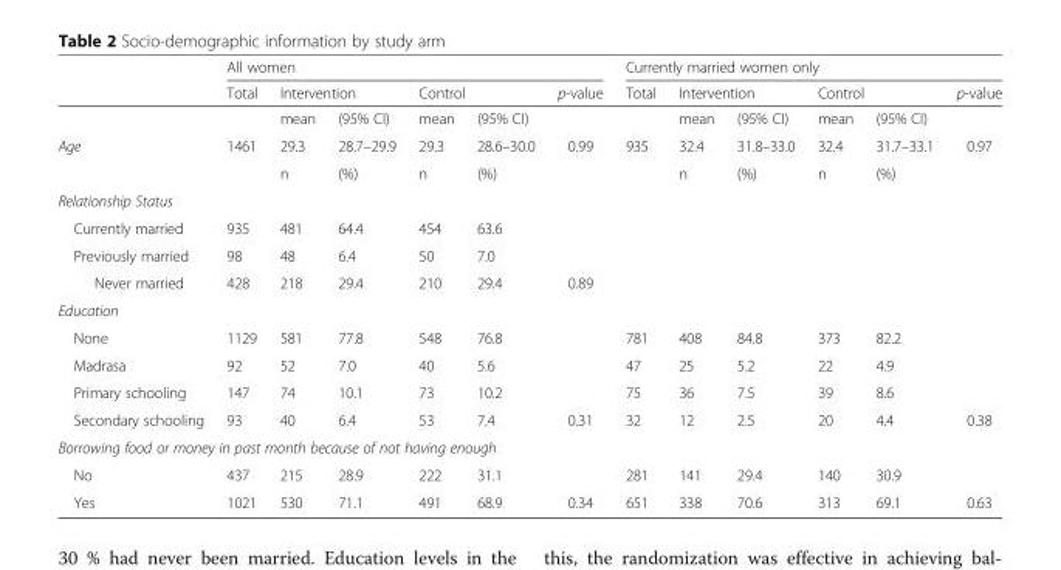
<table><thead><tr><td rowspan="3"></td><td colspan="6">All women</td><td colspan="6">Currently married women only</td></tr><tr><td rowspan="2">Total</td><td colspan="2">Intervention</td><td colspan="2">Control</td><td rowspan="2">p-value</td><td rowspan="2">Total</td><td colspan="2">Intervention</td><td colspan="2">Control</td><td rowspan="2">p-value</td></tr><tr><td>mean</td><td>(95% CI)</td><td>mean</td><td>(95% CI)</td><td>mean</td><td>(95% CI)</td><td>mean</td><td>(95% CI)</td></tr></thead><tbody><tr><td rowspan="2">Age</td><td>1461</td><td>29.3</td><td>28.7–29.9</td><td>29.3</td><td>28.6–30.0</td><td>0.99</td><td>935</td><td>32.4</td><td>31.8–33.0</td><td>32.4</td><td>31.7–33.1</td><td>0.97</td></tr><tr><td></td><td>n</td><td>(%)</td><td>n</td><td>(%)</td><td></td><td></td><td>n</td><td>(%)</td><td>n</td><td>(%)</td><td></td></tr><tr><td colspan="13">Relationship Status</td></tr><tr><td>Currently married</td><td>935</td><td>481</td><td>64.4</td><td>454</td><td>63.6</td><td></td><td></td><td></td><td></td><td></td><td></td><td></td></tr><tr><td>Previously married</td><td>98</td><td>48</td><td>6.4</td><td>50</td><td>7.0</td><td></td><td></td><td></td><td></td><td></td><td></td><td></td></tr><tr><td>Never married</td><td>428</td><td>218</td><td>29.4</td><td>210</td><td>29.4</td><td>0.89</td><td></td><td></td><td></td><td></td><td></td><td></td></tr><tr><td colspan="13">Education</td></tr><tr><td>None</td><td>1129</td><td>581</td><td>77.8</td><td>548</td><td>76.8</td><td></td><td>781</td><td>408</td><td>84.8</td><td>373</td><td>82.2</td><td></td></tr><tr><td>Madrasa</td><td>92</td><td>52</td><td>7.0</td><td>40</td><td>5.6</td><td></td><td>47</td><td>25</td><td>5.2</td><td>22</td><td>4.9</td><td></td></tr><tr><td>Primary schooling</td><td>147</td><td>74</td><td>10.1</td><td>73</td><td>10.2</td><td></td><td>75</td><td>36</td><td>7.5</td><td>39</td><td>8.6</td><td></td></tr><tr><td>Secondary schooling</td><td>93</td><td>40</td><td>6.4</td><td>53</td><td>7.4</td><td>0.31</td><td>32</td><td>12</td><td>2.5</td><td>20</td><td>4.4</td><td>0.38</td></tr><tr><td colspan="13">Borrowing food or money in past month because of not having enough</td></tr><tr><td>No</td><td>437</td><td>215</td><td>28.9</td><td>222</td><td>31.1</td><td></td><td>281</td><td>141</td><td>29.4</td><td>140</td><td>30.9</td><td></td></tr><tr><td>Yes</td><td>1021</td><td>530</td><td>71.1</td><td>491</td><td>68.9</td><td>0.34</td><td>651</td><td>338</td><td>70.6</td><td>313</td><td>69.1</td><td>0.63</td></tr></tbody></table>